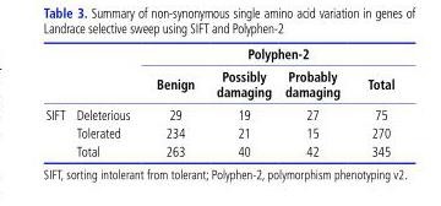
<table><thead><tr><td rowspan="2"></td><td rowspan="2"></td><td colspan="4">Polyphen-2</td></tr><tr><td>Benign</td><td>Possibly damaging</td><td>Probably damaging</td><td>Total</td></tr></thead><tbody><tr><td rowspan="3">SIFT</td><td>Deleterious</td><td>29</td><td>19</td><td>27</td><td>75</td></tr><tr><td>Tolerated</td><td>234</td><td>21</td><td>15</td><td>270</td></tr><tr><td>Total</td><td>263</td><td>40</td><td>42</td><td>345</td></tr></tbody></table>